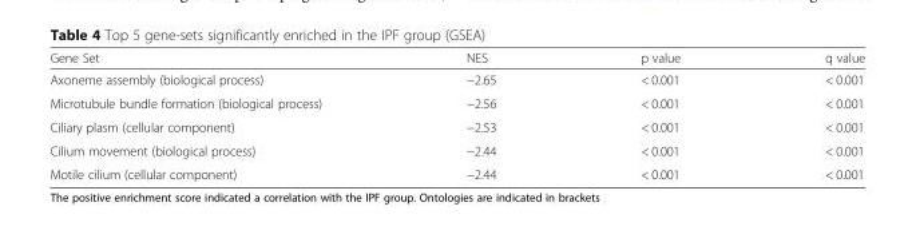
<table><thead><tr><td>Gene Set</td><td>NES</td><td>p value</td><td>q value</td></tr></thead><tbody><tr><td>Axoneme assembly (biological process)</td><td>−2.65</td><td>&lt; 0.001</td><td>&lt; 0.001</td></tr><tr><td>Microtubule bundle formation (biological process)</td><td>−2.56</td><td>&lt; 0.001</td><td>&lt; 0.001</td></tr><tr><td>Ciliary plasm (cellular component)</td><td>−2.53</td><td>&lt; 0.001</td><td>&lt; 0.001</td></tr><tr><td>Cilium movement (biological process)</td><td>−2.44</td><td>&lt; 0.001</td><td>&lt; 0.001</td></tr><tr><td>Motile cilium (cellular component)</td><td>−2.44</td><td>&lt; 0.001</td><td>&lt; 0.001</td></tr></tbody></table>